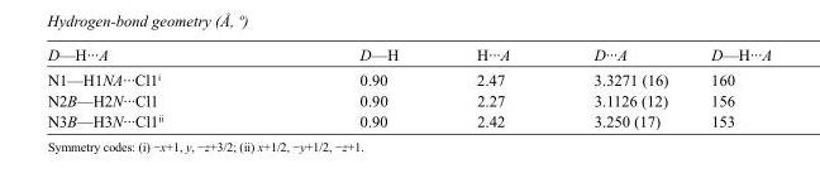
<table><tbody><tr><td>D—H···A</td><td>D—H</td><td>H···A</td><td>D···A</td><td>D—H···A</td></tr><tr><td>N1—H1NA···Cl1<sup>i</sup></td><td>0.90</td><td>2.47</td><td>3.3271 (16)</td><td>160</td></tr><tr><td>N2B—H2N···Cl1</td><td>0.90</td><td>2.27</td><td>3.1126 (12)</td><td>156</td></tr><tr><td>N3B—H3N···Cl1<sup>ii</sup></td><td>0.90</td><td>2.42</td><td>3.250 (17)</td><td>153</td></tr></tbody></table>